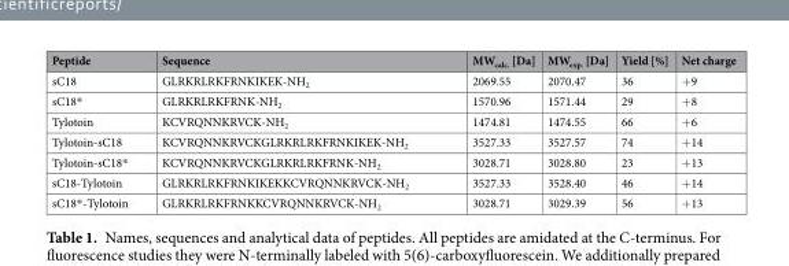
<table><thead><tr><td>Peptide</td><td>Sequence</td><td>MW<sub>calc.</sub> [Da]</td><td>MW<sub>exp.</sub> [Da]</td><td>Yield [%]</td><td>Net charge</td></tr></thead><tbody><tr><td>sC18</td><td>GLRKRLRKFRNKIKEK-NH<sub>2</sub></td><td>2069.55</td><td>2070.47</td><td>36</td><td>+9</td></tr><tr><td>sC18*</td><td>GLRKRLRKFRNK-NH<sub>2</sub></td><td>1570.96</td><td>1571.44</td><td>29</td><td>+8</td></tr><tr><td>Tylotoin</td><td>KCVRQNNKRVCK-NH<sub>2</sub></td><td>1474.81</td><td>1474.55</td><td>66</td><td>+6</td></tr><tr><td>Tylotoin-sC18</td><td>KCVRQNNKRVCKGLRKRLRKFRNKIKEK-NH<sub>2</sub></td><td>3527.33</td><td>3527.57</td><td>74</td><td>+14</td></tr><tr><td>Tylotoin-sC18*</td><td>KCVRQNNKRVCKGLRKRLRKFRNK-NH<sub>2</sub></td><td>3028.71</td><td>3028.80</td><td>23</td><td>+13</td></tr><tr><td>sC18-Tylotoin</td><td>GLRKRLRKFRNKIKEKKCVRQNNKRVCK-NH<sub>2</sub></td><td>3527.33</td><td>3528.40</td><td>46</td><td>+14</td></tr><tr><td>sC18*-Tylotoin</td><td>GLRKRLRKFRNKKCVRQNNKRVCK-NH<sub>2</sub></td><td>3028.71</td><td>3029.39</td><td>56</td><td>+13</td></tr></tbody></table>